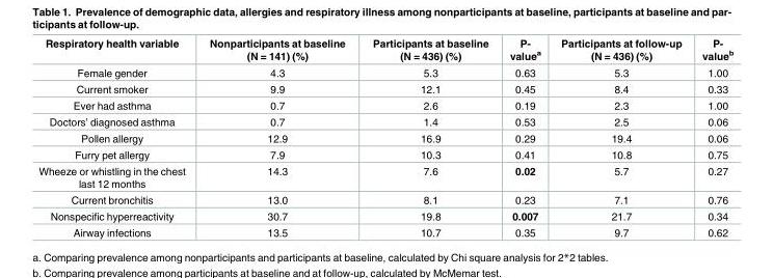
<table><thead><tr><td>Respiratory health variable</td><td>Nonparticipants at baseline (N = 141) (%)</td><td>Participants at baseline (N = 436) (%)</td><td>P- value<sup>a</sup></td><td>Participants at follow-up (N = 436) (%)</td><td>P- value<sup>b</sup></td></tr></thead><tbody><tr><td>Female gender</td><td>4.3</td><td>5.3</td><td>0.63</td><td>5.3</td><td>1.00</td></tr><tr><td>Current smoker</td><td>9.9</td><td>12.1</td><td>0.45</td><td>8.4</td><td>0.33</td></tr><tr><td>Ever had asthma</td><td>0.7</td><td>2.6</td><td>0.19</td><td>2.3</td><td>1.00</td></tr><tr><td>Doctors’ diagnosed asthma</td><td>0.7</td><td>1.4</td><td>0.53</td><td>2.5</td><td>0.06</td></tr><tr><td>Pollen allergy</td><td>12.9</td><td>16.9</td><td>0.29</td><td>19.4</td><td>0.06</td></tr><tr><td>Furry pet allergy</td><td>7.9</td><td>10.3</td><td>0.41</td><td>10.8</td><td>0.75</td></tr><tr><td>Wheeze or whistling in the chest last 12 months</td><td>14.3</td><td>7.6</td><td>0.02</td><td>5.7</td><td>0.27</td></tr><tr><td>Current bronchitis</td><td>13.0</td><td>8.1</td><td>0.23</td><td>7.1</td><td>0.76</td></tr><tr><td>Nonspecific hyperreactivity</td><td>30.7</td><td>19.8</td><td>0.007</td><td>21.7</td><td>0.34</td></tr><tr><td>Airway infections</td><td>13.5</td><td>10.7</td><td>0.35</td><td>9.7</td><td>0.62</td></tr></tbody></table>